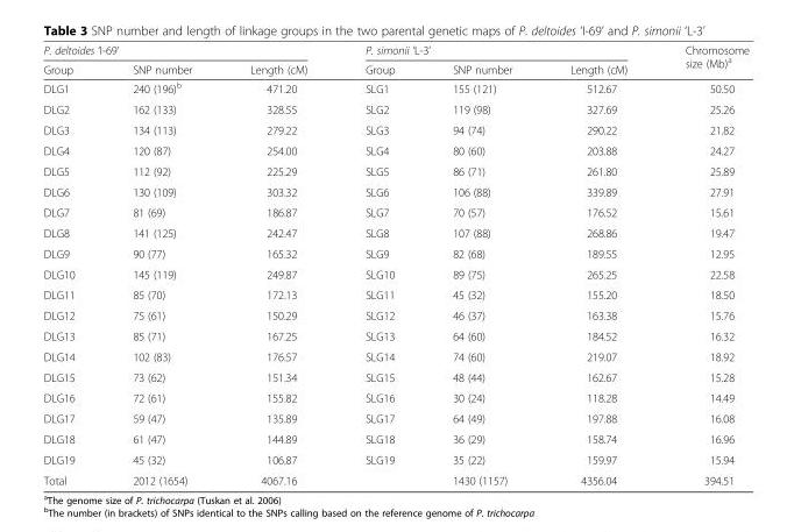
<table><thead><tr><td colspan="3">P. deltoides ‘I-69’</td><td colspan="3">P. simonii ‘L-3’</td><td rowspan="2">Chromosome size (Mb)<sup>a</sup></td></tr><tr><td>Group</td><td>SNP number</td><td>Length (cM)</td><td>Group</td><td>SNP number</td><td>Length (cM)</td></tr></thead><tbody><tr><td>DLG1</td><td>240 (196)<sup>b</sup></td><td>471.20</td><td>SLG1</td><td>155 (121)</td><td>512.67</td><td>50.50</td></tr><tr><td>DLG2</td><td>162 (133)</td><td>328.55</td><td>SLG2</td><td>119 (98)</td><td>327.69</td><td>25.26</td></tr><tr><td>DLG3</td><td>134 (113)</td><td>279.22</td><td>SLG3</td><td>94 (74)</td><td>290.22</td><td>21.82</td></tr><tr><td>DLG4</td><td>120 (87)</td><td>254.00</td><td>SLG4</td><td>80 (60)</td><td>203.88</td><td>24.27</td></tr><tr><td>DLG5</td><td>112 (92)</td><td>225.29</td><td>SLG5</td><td>86 (71)</td><td>261.80</td><td>25.89</td></tr><tr><td>DLG6</td><td>130 (109)</td><td>303.32</td><td>SLG6</td><td>106 (88)</td><td>339.89</td><td>27.91</td></tr><tr><td>DLG7</td><td>81 (69)</td><td>186.87</td><td>SLG7</td><td>70 (57)</td><td>176.52</td><td>15.61</td></tr><tr><td>DLG8</td><td>141 (125)</td><td>242.47</td><td>SLG8</td><td>107 (88)</td><td>268.86</td><td>19.47</td></tr><tr><td>DLG9</td><td>90 (77)</td><td>165.32</td><td>SLG9</td><td>82 (68)</td><td>189.55</td><td>12.95</td></tr><tr><td>DLG10</td><td>145 (119)</td><td>249.87</td><td>SLG10</td><td>89 (75)</td><td>265.25</td><td>22.58</td></tr><tr><td>DLG11</td><td>85 (70)</td><td>172.13</td><td>SLG11</td><td>45 (32)</td><td>155.20</td><td>18.50</td></tr><tr><td>DLG12</td><td>75 (61)</td><td>150.29</td><td>SLG12</td><td>46 (37)</td><td>163.38</td><td>15.76</td></tr><tr><td>DLG13</td><td>85 (71)</td><td>167.25</td><td>SLG13</td><td>64 (60)</td><td>184.52</td><td>16.32</td></tr><tr><td>DLG14</td><td>102 (83)</td><td>176.57</td><td>SLG14</td><td>74 (60)</td><td>219.07</td><td>18.92</td></tr><tr><td>DLG15</td><td>73 (62)</td><td>151.34</td><td>SLG15</td><td>48 (44)</td><td>162.67</td><td>15.28</td></tr><tr><td>DLG16</td><td>72 (61)</td><td>155.82</td><td>SLG16</td><td>30 (24)</td><td>118.28</td><td>14.49</td></tr><tr><td>DLG17</td><td>59 (47)</td><td>135.89</td><td>SLG17</td><td>64 (49)</td><td>197.88</td><td>16.08</td></tr><tr><td>DLG18</td><td>61 (47)</td><td>144.89</td><td>SLG18</td><td>36 (29)</td><td>158.74</td><td>16.96</td></tr><tr><td>DLG19</td><td>45 (32)</td><td>106.87</td><td>SLG19</td><td>35 (22)</td><td>159.97</td><td>15.94</td></tr><tr><td>Total</td><td>2012 (1654)</td><td>4067.16</td><td></td><td>1430 (1157)</td><td>4356.04</td><td>394.51</td></tr></tbody></table>